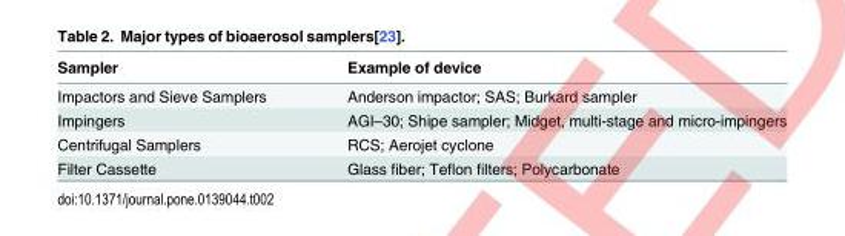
<table><thead><tr><td>Sampler</td><td>Example of device</td></tr></thead><tbody><tr><td>Impactors and Sieve Samplers</td><td>Anderson impactor; SAS; Burkard sampler</td></tr><tr><td>Impingers</td><td>AGI–30; Shipe sampler; Midget, multi-stage and micro-impingers</td></tr><tr><td>Centrifugal Samplers</td><td>RCS; Aerojet cyclone</td></tr><tr><td>Filter Cassette</td><td>Glass fiber; Teflon filters; Polycarbonate</td></tr></tbody></table>